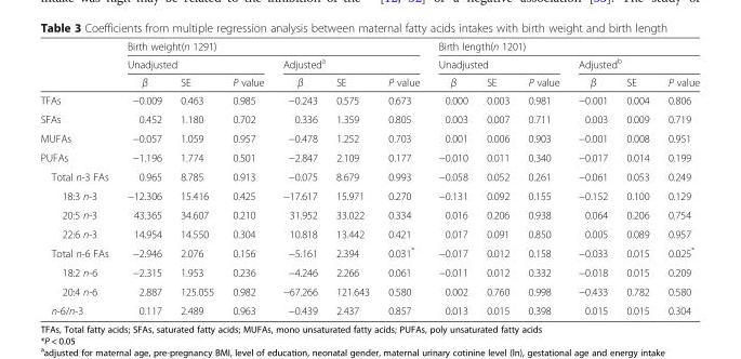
<table><thead><tr><td rowspan="3"></td><td colspan="6">Birth weight(n 1291)</td><td colspan="6">Birth length(n 1201)</td></tr><tr><td colspan="3">Unadjusted</td><td colspan="3">Adjusted<sup>a</sup></td><td colspan="3">Unadjusted</td><td colspan="3">Adjusted<sup>b</sup></td></tr><tr><td>β</td><td>SE</td><td>P value</td><td>β</td><td>SE</td><td>P value</td><td>β</td><td>SE</td><td>P value</td><td>β</td><td>SE</td><td>P value</td></tr></thead><tbody><tr><td>TFAs</td><td>−0.009</td><td>0.463</td><td>0.985</td><td>−0.243</td><td>0.575</td><td>0.673</td><td>0.000</td><td>0.003</td><td>0.981</td><td>−0.001</td><td>0.004</td><td>0.806</td></tr><tr><td>SFAs</td><td>0.452</td><td>1.180</td><td>0.702</td><td>0.336</td><td>1.359</td><td>0.805</td><td>0.003</td><td>0.007</td><td>0.711</td><td>0.003</td><td>0.009</td><td>0.719</td></tr><tr><td>MUFAs</td><td>−0.057</td><td>1.059</td><td>0.957</td><td>−0.478</td><td>1.252</td><td>0.703</td><td>0.001</td><td>0.006</td><td>0.903</td><td>−0.001</td><td>0.008</td><td>0.951</td></tr><tr><td>PUFAs</td><td>−1.196</td><td>1.774</td><td>0.501</td><td>−2.847</td><td>2.109</td><td>0.177</td><td>−0.010</td><td>0.011</td><td>0.340</td><td>−0.017</td><td>0.014</td><td>0.199</td></tr><tr><td>Total n-3 FAs</td><td>0.965</td><td>8.785</td><td>0.913</td><td>−0.075</td><td>8.679</td><td>0.993</td><td>−0.058</td><td>0.052</td><td>0.261</td><td>−0.061</td><td>0.053</td><td>0.249</td></tr><tr><td>18:3 n-3</td><td>−12.306</td><td>15.416</td><td>0.425</td><td>−17.617</td><td>15.971</td><td>0.270</td><td>−0.131</td><td>0.092</td><td>0.155</td><td>−0.152</td><td>0.100</td><td>0.129</td></tr><tr><td>20:5 n-3</td><td>43.365</td><td>34.607</td><td>0.210</td><td>31.952</td><td>33.022</td><td>0.334</td><td>0.016</td><td>0.206</td><td>0.938</td><td>0.064</td><td>0.206</td><td>0.754</td></tr><tr><td>22:6 n-3</td><td>14.954</td><td>14.550</td><td>0.304</td><td>10.818</td><td>13.442</td><td>0.421</td><td>0.017</td><td>0.091</td><td>0.850</td><td>0.005</td><td>0.089</td><td>0.957</td></tr><tr><td>Total n-6 FAs</td><td>−2.946</td><td>2.076</td><td>0.156</td><td>−5.161</td><td>2.394</td><td>0.031*</td><td>−0.017</td><td>0.012</td><td>0.158</td><td>−0.033</td><td>0.015</td><td>0.025*</td></tr><tr><td>18:2 n-6</td><td>−2.315</td><td>1.953</td><td>0.236</td><td>−4.246</td><td>2.266</td><td>0.061</td><td>−0.011</td><td>0.012</td><td>0.332</td><td>−0.018</td><td>0.015</td><td>0.209</td></tr><tr><td>20:4 n-6</td><td>2.887</td><td>125.055</td><td>0.982</td><td>−67.266</td><td>121.643</td><td>0.580</td><td>0.002</td><td>0.760</td><td>0.998</td><td>−0.433</td><td>0.782</td><td>0.580</td></tr><tr><td>n-6/n-3</td><td>0.117</td><td>2.489</td><td>0.963</td><td>−0.439</td><td>2.437</td><td>0.857</td><td>0.013</td><td>0.015</td><td>0.398</td><td>0.015</td><td>0.015</td><td>0.304</td></tr></tbody></table>